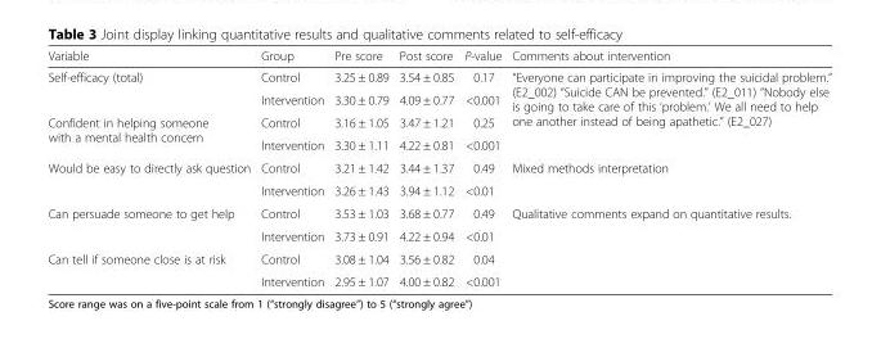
<table><thead><tr><td>Variable</td><td>Group</td><td>Pre score</td><td>Post score</td><td>P-value</td><td>Comments about intervention</td></tr></thead><tbody><tr><td rowspan="2">Self-efficacy (total)</td><td>Control</td><td>3.25 ± 0.89</td><td>3.54 ± 0.85</td><td>0.17</td><td rowspan="4">“Everyone can participate in improving the suicidal problem.” (E2_002) “Suicide CAN be prevented.” (E2_011) “Nobody else is going to take care of this ‘problem.’ We all need to help one another instead of being apathetic.” (E2_027)</td></tr><tr><td>Intervention</td><td>3.30 ± 0.79</td><td>4.09 ± 0.77</td><td>&lt;0.001</td></tr><tr><td rowspan="2">Confident in helping someone with a mental health concern</td><td>Control</td><td>3.16 ± 1.05</td><td>3.47 ± 1.21</td><td>0.25</td></tr><tr><td>Intervention</td><td>3.30 ± 1.11</td><td>4.22 ± 0.81</td><td>&lt;0.001</td></tr><tr><td rowspan="2">Would be easy to directly ask question</td><td>Control</td><td>3.21 ± 1.42</td><td>3.44 ± 1.37</td><td>0.49</td><td rowspan="2">Mixed methods interpretation</td></tr><tr><td>Intervention</td><td>3.26 ± 1.43</td><td>3.94 ± 1.12</td><td>&lt;0.01</td></tr><tr><td rowspan="2">Can persuade someone to get help</td><td>Control</td><td>3.53 ± 1.03</td><td>3.68 ± 0.77</td><td>0.49</td><td rowspan="4">Qualitative comments expand on quantitative results.</td></tr><tr><td>Intervention</td><td>3.73 ± 0.91</td><td>4.22 ± 0.94</td><td>&lt;0.01</td></tr><tr><td rowspan="2">Can tell if someone close is at risk</td><td>Control</td><td>3.08 ± 1.04</td><td>3.56 ± 0.82</td><td>0.04</td></tr><tr><td>Intervention</td><td>2.95 ± 1.07</td><td>4.00 ± 0.82</td><td>&lt;0.001</td></tr></tbody></table>